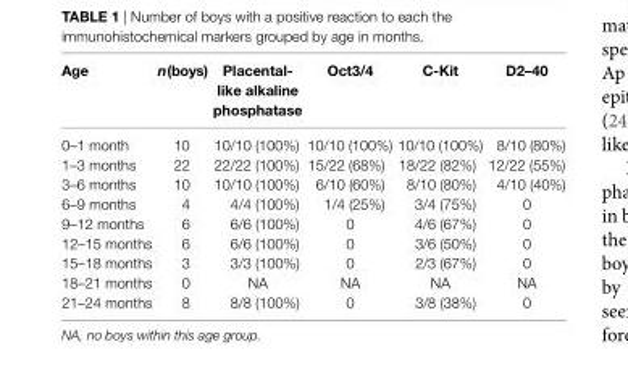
<table><thead><tr><td>age</td><td>n(boys)</td><td>Placental- like alkaline phosphatase</td><td>Oct3/4</td><td>c-Kit</td><td>D2–40</td></tr></thead><tbody><tr><td>0–1 month</td><td>10</td><td>10/10 (100%)</td><td>10/10 (100%)</td><td>10/10 (100%)</td><td>8/10 (80%)</td></tr><tr><td>1–3 months</td><td>22</td><td>22/22 (100%)</td><td>15/22 (68%)</td><td>18/22 (82%)</td><td>12/22 (55%)</td></tr><tr><td>3–6 months</td><td>10</td><td>10/10 (100%)</td><td>6/10 (60%)</td><td>8/10 (80%)</td><td>4/10 (40%)</td></tr><tr><td>6–9 months</td><td>4</td><td>4/4 (100%)</td><td>1/4 (25%)</td><td>3/4 (75%)</td><td>0</td></tr><tr><td>9–12 months</td><td>6</td><td>6/6 (100%)</td><td>0</td><td>4/6 (67%)</td><td>0</td></tr><tr><td>12–15 months</td><td>6</td><td>6/6 (100%)</td><td>0</td><td>3/6 (50%)</td><td>0</td></tr><tr><td>15–18 months</td><td>3</td><td>3/3 (100%)</td><td>0</td><td>2/3 (67%)</td><td>0</td></tr><tr><td>18–21 months</td><td>0</td><td>NA</td><td>NA</td><td>NA</td><td>NA</td></tr><tr><td>21–24 months</td><td>8</td><td>8/8 (100%)</td><td>0</td><td>3/8 (38%)</td><td>0</td></tr></tbody></table>